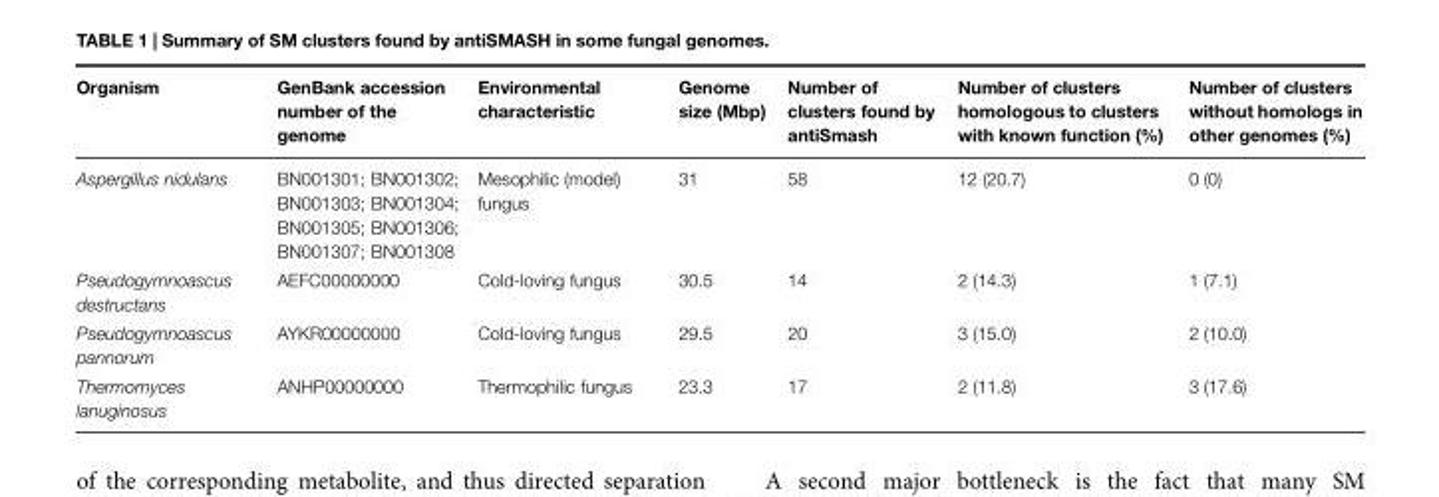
<table><thead><tr><td>Organism</td><td>GenBank accession number of the genome</td><td>Environmental characteristic</td><td>Genome size (Mbp)</td><td>Number of clusters found by antiSmash</td><td>Number of clusters homologous to clusters with known function (%)</td><td>Number of clusters without homologs in other genomes (%)</td></tr></thead><tbody><tr><td>Aspergillus nidulans</td><td>BN001301; BN001302; BN001303; BN001304; BN001305; BN001306; BN001307; BN001308</td><td>Mesophilic (model) fungus</td><td>31</td><td>58</td><td>12 (20.7)</td><td>0 (0)</td></tr><tr><td>Pseudogymnoascus destructans</td><td>AEFC00000000</td><td>Cold-loving fungus</td><td>30.5</td><td>14</td><td>2 (14.3)</td><td>1 (7.1)</td></tr><tr><td>Pseudogymnoascus pannorum</td><td>AYKR00000000</td><td>Cold-loving fungus</td><td>29.5</td><td>20</td><td>3 (15.0)</td><td>2 (10.0)</td></tr><tr><td>Thermomyces lanuginosus</td><td>ANHP00000000</td><td>Thermophilic fungus</td><td>23.3</td><td>17</td><td>2 (11.8)</td><td>3 (17.6)</td></tr></tbody></table>